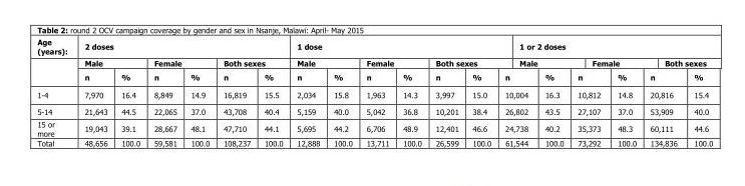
<table><thead><tr><td rowspan="3">Age (years):</td><td colspan="6">2 doses</td><td colspan="6">1 dose</td><td colspan="6">1 or 2 doses</td></tr><tr><td colspan="2">Male</td><td colspan="2">Female</td><td colspan="2">Both sexes</td><td colspan="2">Male</td><td colspan="2">Female</td><td colspan="2">Both sexes</td><td colspan="2">Male</td><td colspan="2">Female</td><td colspan="2">Both sexes</td></tr><tr><td>n</td><td>%</td><td>n</td><td>%</td><td>n</td><td>%</td><td>n</td><td>%</td><td>n</td><td>%</td><td>n</td><td>%</td><td>n</td><td>%</td><td>n</td><td>%</td><td>n</td><td>%</td></tr></thead><tbody><tr><td>1-4</td><td>7,970</td><td>16.4</td><td>8,849</td><td>14.9</td><td>16,819</td><td>15.5</td><td>2,034</td><td>15.8</td><td>1,963</td><td>14.3</td><td>3,997</td><td>15.0</td><td>10,004</td><td>16.3</td><td>10,812</td><td>14.8</td><td>20,816</td><td>15.4</td></tr><tr><td>5-14</td><td>21,643</td><td>44.5</td><td>22,065</td><td>37.0</td><td>43,708</td><td>40.4</td><td>5,159</td><td>40.0</td><td>5,042</td><td>36.8</td><td>10,201</td><td>38.4</td><td>26,802</td><td>43.5</td><td>27,107</td><td>37.0</td><td>53,909</td><td>40.0</td></tr><tr><td>15 or more</td><td>19,043</td><td>39.1</td><td>28,667</td><td>48.1</td><td>47,710</td><td>44.1</td><td>5,695</td><td>44.2</td><td>6,706</td><td>48.9</td><td>12,401</td><td>46.6</td><td>24,738</td><td>40.2</td><td>35,373</td><td>48.3</td><td>60,111</td><td>44.6</td></tr><tr><td>Total</td><td>48,656</td><td>100.0</td><td>59,581</td><td>100.0</td><td>108,237</td><td>100.0</td><td>12,888</td><td>100.0</td><td>13,711</td><td>100.0</td><td>26,599</td><td>100.0</td><td>61,544</td><td>100.0</td><td>73,292</td><td>100.0</td><td>134,836</td><td>100.0</td></tr></tbody></table>